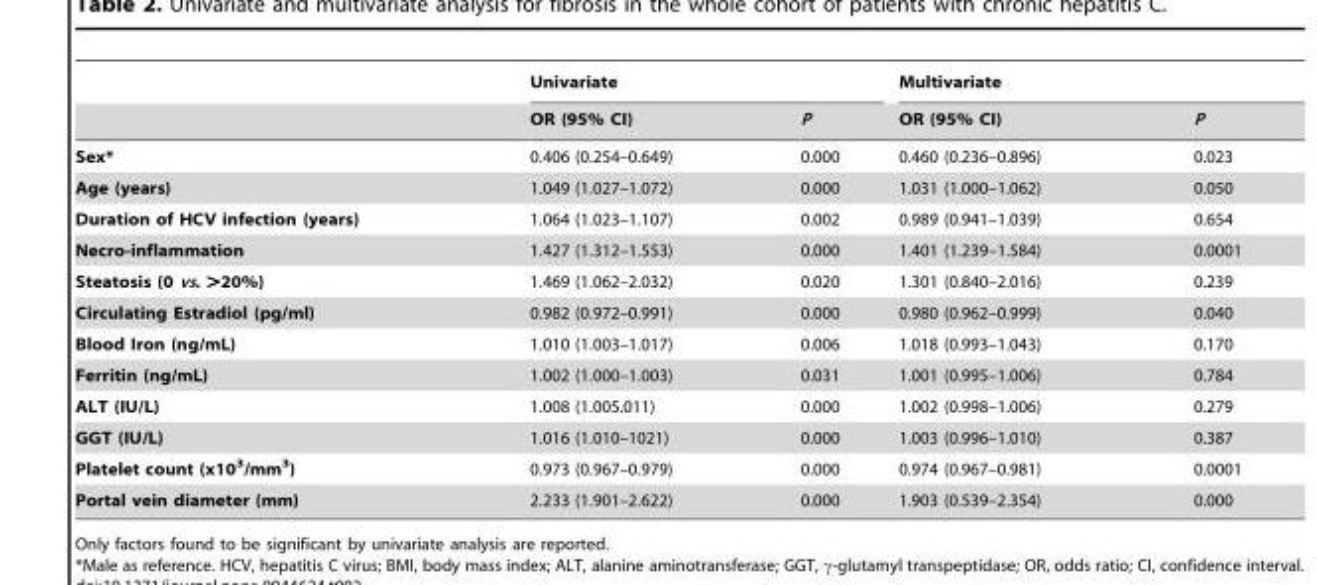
<table><thead><tr><td rowspan="2"></td><td colspan="2">Univariate</td><td colspan="2">Multivariate</td></tr><tr><td>OR (95% CI)</td><td>P</td><td>OR (95% CI)</td><td>P</td></tr></thead><tbody><tr><td>Sex*</td><td>0.406 (0.254–0.649)</td><td>0.000</td><td>0.460 (0.236–0.896)</td><td>0.023</td></tr><tr><td>Age (years)</td><td>1.049 (1.027–1.072)</td><td>0.000</td><td>1.031 (1.000–1.062)</td><td>0.050</td></tr><tr><td>Duration of HCV infection (years)</td><td>1.064 (1.023–1.107)</td><td>0.002</td><td>0.989 (0.941–1.039)</td><td>0.654</td></tr><tr><td>Necro-inflammation</td><td>1.427 (1.312–1.553)</td><td>0.000</td><td>1.401 (1.239–1.584)</td><td>0.0001</td></tr><tr><td>Steatosis (0 vs. &gt;20%)</td><td>1.469 (1.062–2.032)</td><td>0.020</td><td>1.301 (0.840–2.016)</td><td>0.239</td></tr><tr><td>Circulating Estradiol (pg/ml)</td><td>0.982 (0.972–0.991)</td><td>0.000</td><td>0.980 (0.962–0.999)</td><td>0.040</td></tr><tr><td>Blood Iron (ng/mL)</td><td>1.010 (1.003–1.017)</td><td>0.006</td><td>1.018 (0.993–1.043)</td><td>0.170</td></tr><tr><td>Ferritin (ng/mL)</td><td>1.002 (1.000–1.003)</td><td>0.031</td><td>1.001 (0.995–1.006)</td><td>0.784</td></tr><tr><td>ALT (IU/L)</td><td>1.008 (1.005.011)</td><td>0.000</td><td>1.002 (0.998–1.006)</td><td>0.279</td></tr><tr><td>GGT (IU/L)</td><td>1.016 (1.010–1021)</td><td>0.000</td><td>1.003 (0.996–1.010)</td><td>0.387</td></tr><tr><td>Platelet count (x10<sup>3</sup>/mm<sup>3</sup>)</td><td>0.973 (0.967–0.979)</td><td>0.000</td><td>0.974 (0.967–0.981)</td><td>0.0001</td></tr><tr><td>Portal vein diameter (mm)</td><td>2.233 (1.901–2.622)</td><td>0.000</td><td>1.903 (0.539–2.354)</td><td>0.000</td></tr></tbody></table>